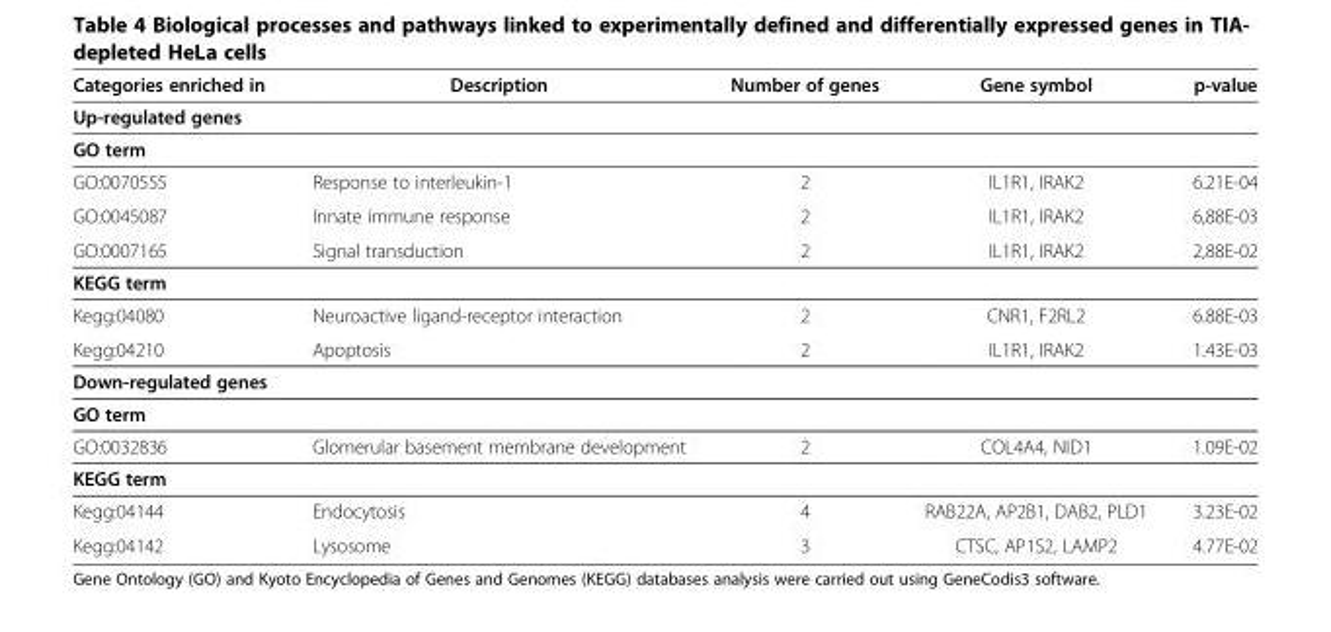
<table><thead><tr><td>Categories enriched in</td><td>Description</td><td>Number of genes</td><td>Gene symbol</td><td>p-value</td></tr></thead><tbody><tr><td colspan="5">Up-regulated genes</td></tr><tr><td colspan="5">GO term</td></tr><tr><td>GO:0070555</td><td>Response to interleukin-1</td><td>2</td><td>IL1R1, IRAK2</td><td>6.21E-04</td></tr><tr><td>GO:0045087</td><td>Innate immune response</td><td>2</td><td>IL1R1, IRAK2</td><td>6,88E-03</td></tr><tr><td>GO:0007165</td><td>Signal transduction</td><td>2</td><td>IL1R1, IRAK2</td><td>2,88E-02</td></tr><tr><td colspan="5">KEGG term</td></tr><tr><td>Kegg:04080</td><td>Neuroactive ligand-receptor interaction</td><td>2</td><td>CNR1, F2RL2</td><td>6.88E-03</td></tr><tr><td>Kegg:04210</td><td>Apoptosis</td><td>2</td><td>IL1R1, IRAK2</td><td>1.43E-03</td></tr><tr><td colspan="5">Down-regulated genes</td></tr><tr><td colspan="5">GO term</td></tr><tr><td>GO:0032836</td><td>Glomerular basement membrane development</td><td>2</td><td>COL4A4, NID1</td><td>1.09E-02</td></tr><tr><td colspan="5">KEGG term</td></tr><tr><td>Kegg:04144</td><td>Endocytosis</td><td>4</td><td>RAB22A, AP2B1, DAB2, PLD1</td><td>3.23E-02</td></tr><tr><td>Kegg:04142</td><td>Lysosome</td><td>3</td><td>CTSC, AP1S2, LAMP2</td><td>4.77E-02</td></tr></tbody></table>